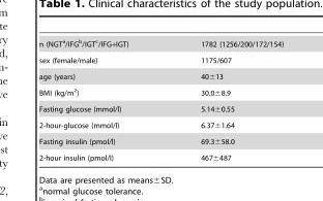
<table><tbody><tr><td>n (NGT<sup>a</sup>/IFG<sup>b</sup>/IGT<sup>c</sup>/IFG+IGT)</td><td>1782 (1256/200/172/154)</td></tr><tr><td>sex (female/male)</td><td>1175/607</td></tr><tr><td>age (years)</td><td>40±13</td></tr><tr><td>BMI (kg/m<sup>2</sup>)</td><td>30.0±8.9</td></tr><tr><td>Fasting glucose (mmol/l)</td><td>5.14±0.55</td></tr><tr><td>2-hour-glucose (mmol/l)</td><td>6.37±1.64</td></tr><tr><td>Fasting insulin (pmol/l)</td><td>69.3±58.0</td></tr><tr><td>2-hour insulin (pmol/l)</td><td>467±487</td></tr></tbody></table>